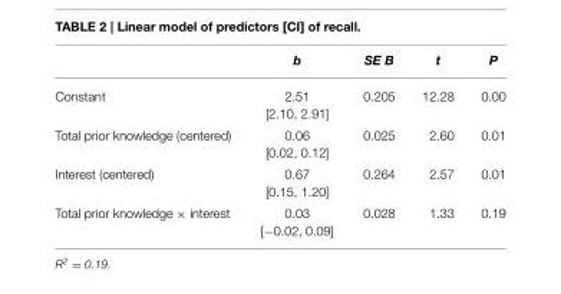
<table><thead><tr><td></td><td>b</td><td>SE B</td><td>t</td><td>P</td></tr></thead><tbody><tr><td>Constant</td><td>2.51 [2.10, 2.91]</td><td>0.205</td><td>12.28</td><td>0.00</td></tr><tr><td>Total prior knowledge (centered)</td><td>0.06 [0.02, 0.12]</td><td>0.025</td><td>2.60</td><td>0.01</td></tr><tr><td>Interest (centered)</td><td>0.67 [0.15, 1.20]</td><td>0.264</td><td>2.57</td><td>0.01</td></tr><tr><td>Total prior knowledge × interest</td><td>0.03 [−0.02, 0.09]</td><td>0.028</td><td>1.33</td><td>0.19</td></tr></tbody></table>